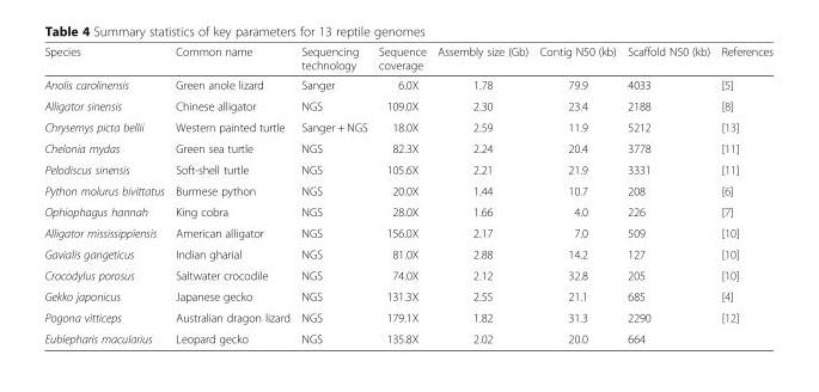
<table><thead><tr><td>Species</td><td>Common name</td><td>Sequencing technology</td><td>Sequence coverage</td><td>Assembly size (Gb)</td><td>Contig N50 (kb)</td><td>Scaffold N50 (kb)</td><td>References</td></tr></thead><tbody><tr><td>Anolis carolinensis</td><td>Green anole lizard</td><td>Sanger</td><td>6.0X</td><td>1.78</td><td>79.9</td><td>4033</td><td>[5]</td></tr><tr><td>Alligator sinensis</td><td>Chinese alligator</td><td>NGS</td><td>109.0X</td><td>2.30</td><td>23.4</td><td>2188</td><td>[8]</td></tr><tr><td>Chrysemys picta bellii</td><td>Western painted turtle</td><td>Sanger + NGS</td><td>18.0X</td><td>2.59</td><td>11.9</td><td>5212</td><td>[13]</td></tr><tr><td>Chelonia mydas</td><td>Green sea turtle</td><td>NGS</td><td>82.3X</td><td>2.24</td><td>20.4</td><td>3778</td><td>[11]</td></tr><tr><td>Pelodiscus sinensis</td><td>Soft-shell turtle</td><td>NGS</td><td>105.6X</td><td>2.21</td><td>21.9</td><td>3331</td><td>[11]</td></tr><tr><td>Python molurus bivittatus</td><td>Burmese python</td><td>NGS</td><td>20.0X</td><td>1.44</td><td>10.7</td><td>208</td><td>[6]</td></tr><tr><td>Ophiophagus hannah</td><td>King cobra</td><td>NGS</td><td>28.0X</td><td>1.66</td><td>4.0</td><td>226</td><td>[7]</td></tr><tr><td>Alligator mississippiensis</td><td>American alligator</td><td>NGS</td><td>156.0X</td><td>2.17</td><td>7.0</td><td>509</td><td>[10]</td></tr><tr><td>Gavialis gangeticus</td><td>Indian gharial</td><td>NGS</td><td>81.0X</td><td>2.88</td><td>14.2</td><td>127</td><td>[10]</td></tr><tr><td>Crocodylus porosus</td><td>Saltwater crocodile</td><td>NGS</td><td>74.0X</td><td>2.12</td><td>32.8</td><td>205</td><td>[10]</td></tr><tr><td>Gekko japonicus</td><td>Japanese gecko</td><td>NGS</td><td>131.3X</td><td>2.55</td><td>21.1</td><td>685</td><td>[4]</td></tr><tr><td>Pogona vitticeps</td><td>Australian dragon lizard</td><td>NGS</td><td>179.1X</td><td>1.82</td><td>31.3</td><td>2290</td><td>[12]</td></tr><tr><td>Eublepharis macularius</td><td>Leopard gecko</td><td>NGS</td><td>135.8X</td><td>2.02</td><td>20.0</td><td>664</td><td></td></tr></tbody></table>